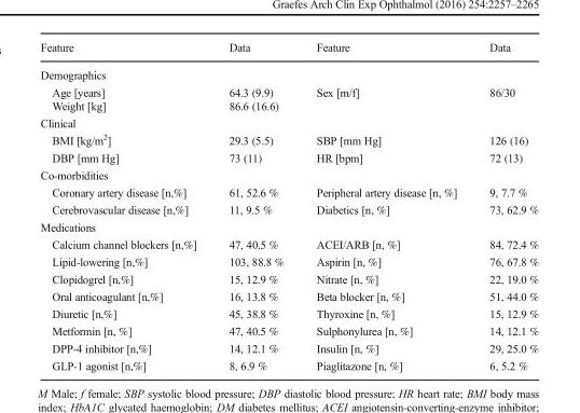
<table><thead><tr><td>Feature</td><td>Data</td><td>Feature</td><td>Data</td></tr></thead><tbody><tr><td colspan="4">Demographics</td></tr><tr><td>Age [years]</td><td>64.3 (9.9)</td><td rowspan="2">Sex [m/f]</td><td rowspan="2">86/30</td></tr><tr><td>Weight [kg]</td><td>86.6 (16.6)</td></tr><tr><td colspan="4">Clinical</td></tr><tr><td>BMI [kg/m<sup>2</sup>]</td><td>29.3 (5.5)</td><td>SBP [mm Hg]</td><td>126 (16)</td></tr><tr><td>DBP [mm Hg]</td><td>73 (11)</td><td>HR [bpm]</td><td>72 (13)</td></tr><tr><td colspan="4">Co-morbidities</td></tr><tr><td>Coronary artery disease [n,%]</td><td>61, 52.6 %</td><td>Peripheral artery disease [n, %]</td><td>9, 7.7 %</td></tr><tr><td>Cerebrovascular disease [n,%]</td><td>11, 9.5 %</td><td>Diabetics [n, %]</td><td>73, 62.9 %</td></tr><tr><td colspan="4">Medications</td></tr><tr><td>Calcium channel blockers [n,%]</td><td>47, 40.5 %</td><td>ACEI/ARB [n, %]</td><td>84, 72.4 %</td></tr><tr><td>Lipid-lowering [n,%]</td><td>103, 88.8 %</td><td>Aspirin [n, %]</td><td>76, 67.8 %</td></tr><tr><td>Clopidogrel [n,%]</td><td>15, 12.9 %</td><td>Nitrate [n, %]</td><td>22, 19.0 %</td></tr><tr><td>Oral anticoagulant [n,%]</td><td>16, 13.8 %</td><td>Beta blocker [n, %]</td><td>51, 44.0 %</td></tr><tr><td>Diuretic [n,%]</td><td>45, 38.8 %</td><td>Thyroxine [n, %]</td><td>15, 12.9 %</td></tr><tr><td>Metformin [n, %]</td><td>47, 40.5 %</td><td>Sulphonylurea [n, %]</td><td>14, 12.1 %</td></tr><tr><td>DPP-4 inhibitor [n,%]</td><td>14, 12.1 %</td><td>Insulin [n, %]</td><td>29, 25.0 %</td></tr><tr><td>GLP-1 agonist [n,%]</td><td>8, 6.9 %</td><td>Piaglitazone [n, %]</td><td>6, 5.2 %</td></tr></tbody></table>